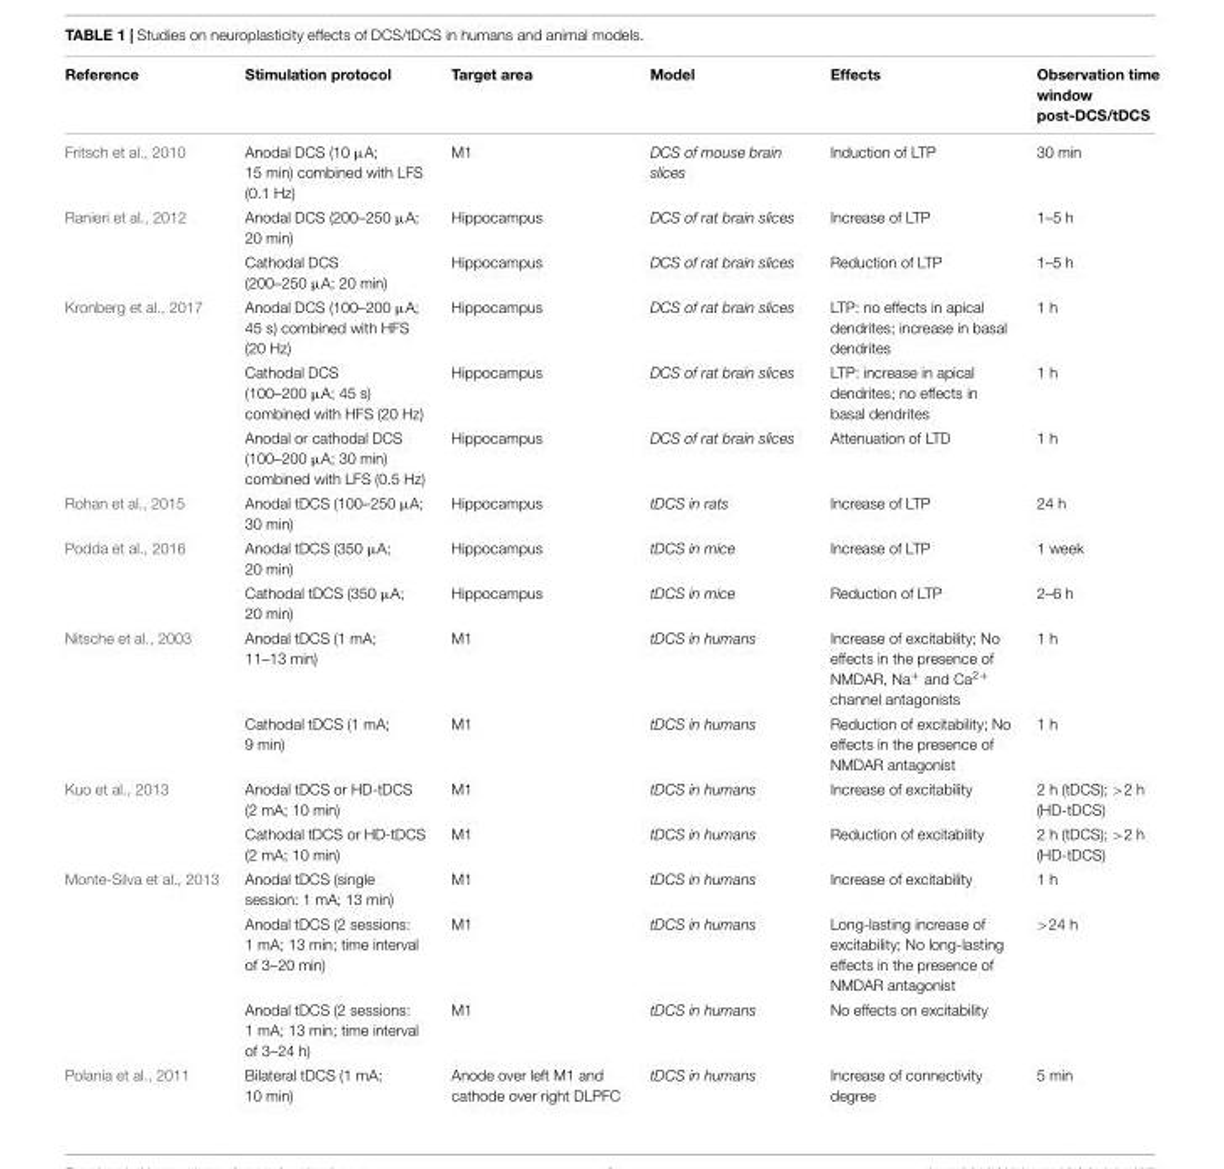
<table><thead><tr><td>Reference</td><td>Stimulation protocol</td><td>Target area</td><td>Model</td><td>Effects</td><td>Observation time window post-DCS/tDCS</td></tr></thead><tbody><tr><td>Fritsch et al., 2010</td><td>Anodal DCS (10 µA; 15 min) combined with LFS (0.1 Hz)</td><td>M1</td><td>DCS of mouse brain slices</td><td>Induction of LTP</td><td>30 min</td></tr><tr><td rowspan="2">Ranieri et al., 2012</td><td>Anodal DCS (200–250 µA; 20 min)</td><td>Hippocampus</td><td>DCS of rat brain slices</td><td>Increase of LTP</td><td>1–5 h</td></tr><tr><td>Cathodal DCS (200–250 µA; 20 min)</td><td>Hippocampus</td><td>DCS of rat brain slices</td><td>Reduction of LTP</td><td>1–5 h</td></tr><tr><td rowspan="3">Kronberg et al., 2017</td><td>Anodal DCS (100–200 µA; 45 s) combined with HFS (20 Hz)</td><td>Hippocampus</td><td>DCS of rat brain slices</td><td>LTP: no effects in apical dendrites; increase in basal dendrites</td><td>1 h</td></tr><tr><td>Cathodal DCS (100–200 µA; 45 s) combined with HFS (20 Hz)</td><td>Hippocampus</td><td>DCS of rat brain slices</td><td>LTP: increase in apical dendrites; no effects in basal dendrites</td><td>1 h</td></tr><tr><td>Anodal or cathodal DCS (100–200 µA; 30 min) combined with LFS (0.5 Hz)</td><td>Hippocampus</td><td>DCS of rat brain slices</td><td>Attenuation of LTD</td><td>1 h</td></tr><tr><td>Rohan et al., 2015</td><td>Anodal tDCS (100–250 µA; 30 min)</td><td>Hippocampus</td><td>tDCS in rats</td><td>Increase of LTP</td><td>24 h</td></tr><tr><td rowspan="2">Podda et al., 2016</td><td>Anodal tDCS (350 µA; 20 min)</td><td>Hippocampus</td><td>tDCS in mice</td><td>Increase of LTP</td><td>1 week</td></tr><tr><td>Cathodal tDCS (350 µA; 20 min)</td><td>Hippocampus</td><td>tDCS in mice</td><td>Reduction of LTP</td><td>2–6 h</td></tr><tr><td rowspan="2">Nitsche et al., 2003</td><td>Anodal tDCS (1 mA; 11–13 min)</td><td>M1</td><td>tDCS in humans</td><td>Increase of excitability; No effects in the presence of NMDAR, Na<sup>+</sup> and Ca<sup>2+</sup> channel antagonists</td><td>1 h</td></tr><tr><td>Cathodal tDCS (1 mA; 9 min)</td><td>M1</td><td>tDCS in humans</td><td>Reduction of excitability; No effects in the presence of NMDAR antagonist</td><td>1 h</td></tr><tr><td rowspan="2">Kuo et al., 2013</td><td>Anodal tDCS or HD-tDCS (2 mA; 10 min)</td><td>M1</td><td>tDCS in humans</td><td>Increase of excitability</td><td>2 h (tDCS); &gt;2 h (HD-tDCS)</td></tr><tr><td>Cathodal tDCS or HD-tDCS (2 mA; 10 min)</td><td>M1</td><td>tDCS in humans</td><td>Reduction of excitability</td><td>2 h (tDCS); &gt;2 h (HD-tDCS)</td></tr><tr><td rowspan="3">Monte-Silva et al., 2013</td><td>Anodal tDCS (single session: 1 mA; 13 min)</td><td>M1</td><td>tDCS in humans</td><td>Increase of excitability</td><td>1 h</td></tr><tr><td>Anodal tDCS (2 sessions: 1 mA; 13 min; time interval of 3–20 min)</td><td>M1</td><td>tDCS in humans</td><td>Long-lasting increase of excitability; No long-lasting effects in the presence of NMDAR antagonist</td><td>&gt;24 h</td></tr><tr><td>Anodal tDCS (2 sessions: 1 mA; 13 min; time interval of 3–24 h)</td><td>M1</td><td>tDCS in humans</td><td>No effects on excitability</td><td></td></tr><tr><td>Polanía et al., 2011</td><td>Bilateral tDCS (1 mA; 10 min)</td><td>Anode over left M1 and cathode over right DLPFC</td><td>tDCS in humans</td><td>Increase of connectivity degree</td><td>5 min</td></tr></tbody></table>